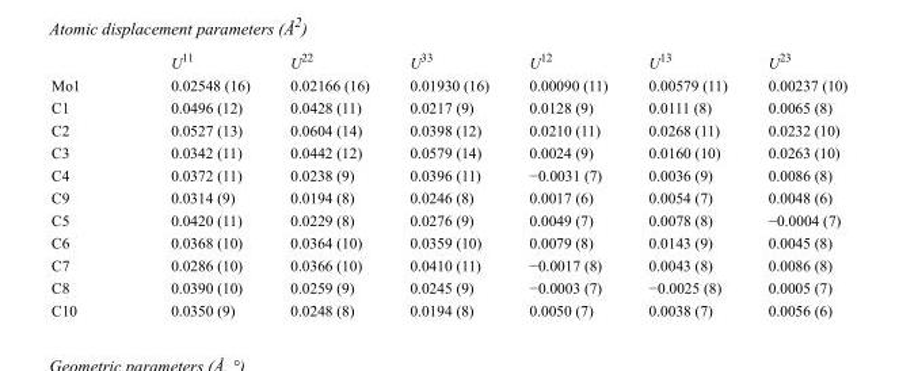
<table><thead><tr><td></td><td>U<sup>11</sup></td><td>U<sup>22</sup></td><td>U<sup>33</sup></td><td>U<sup>12</sup></td><td>U<sup>13</sup></td><td>U<sup>23</sup></td></tr></thead><tbody><tr><td>Mo1</td><td>0.02548 (16)</td><td>0.02166 (16)</td><td>0.01930 (16)</td><td>0.00090 (11)</td><td>0.00579 (11)</td><td>0.00237 (10)</td></tr><tr><td>C1</td><td>0.0496 (12)</td><td>0.0428 (11)</td><td>0.0217 (9)</td><td>0.0128 (9)</td><td>0.0111 (8)</td><td>0.0065 (8)</td></tr><tr><td>C2</td><td>0.0527 (13)</td><td>0.0604 (14)</td><td>0.0398 (12)</td><td>0.0210 (11)</td><td>0.0268 (11)</td><td>0.0232 (10)</td></tr><tr><td>C3</td><td>0.0342 (11)</td><td>0.0442 (12)</td><td>0.0579 (14)</td><td>0.0024 (9)</td><td>0.0160 (10)</td><td>0.0263 (10)</td></tr><tr><td>C4</td><td>0.0372 (11)</td><td>0.0238 (9)</td><td>0.0396 (11)</td><td>−0.0031 (7)</td><td>0.0036 (9)</td><td>0.0086 (8)</td></tr><tr><td>C9</td><td>0.0314 (9)</td><td>0.0194 (8)</td><td>0.0246 (8)</td><td>0.0017 (6)</td><td>0.0054 (7)</td><td>0.0048 (6)</td></tr><tr><td>C5</td><td>0.0420 (11)</td><td>0.0229 (8)</td><td>0.0276 (9)</td><td>0.0049 (7)</td><td>0.0078 (8)</td><td>−0.0004 (7)</td></tr><tr><td>C6</td><td>0.0368 (10)</td><td>0.0364 (10)</td><td>0.0359 (10)</td><td>0.0079 (8)</td><td>0.0143 (9)</td><td>0.0045 (8)</td></tr><tr><td>C7</td><td>0.0286 (10)</td><td>0.0366 (10)</td><td>0.0410 (11)</td><td>−0.0017 (8)</td><td>0.0043 (8)</td><td>0.0086 (8)</td></tr><tr><td>C8</td><td>0.0390 (10)</td><td>0.0259 (9)</td><td>0.0245 (9)</td><td>−0.0003 (7)</td><td>−0.0025 (8)</td><td>0.0005 (7)</td></tr><tr><td>C10</td><td>0.0350 (9)</td><td>0.0248 (8)</td><td>0.0194 (8)</td><td>0.0050 (7)</td><td>0.0038 (7)</td><td>0.0056 (6)</td></tr></tbody></table>